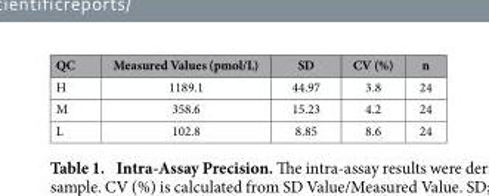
<table><thead><tr><td>QC</td><td>Measured Values (pmol/L)</td><td>SD</td><td>CV (%)</td><td>n</td></tr></thead><tbody><tr><td>H</td><td>1189.1</td><td>44.97</td><td>3.8</td><td>24</td></tr><tr><td>M</td><td>358.6</td><td>15.23</td><td>4.2</td><td>24</td></tr><tr><td>L</td><td>102.8</td><td>8.85</td><td>8.6</td><td>24</td></tr></tbody></table>